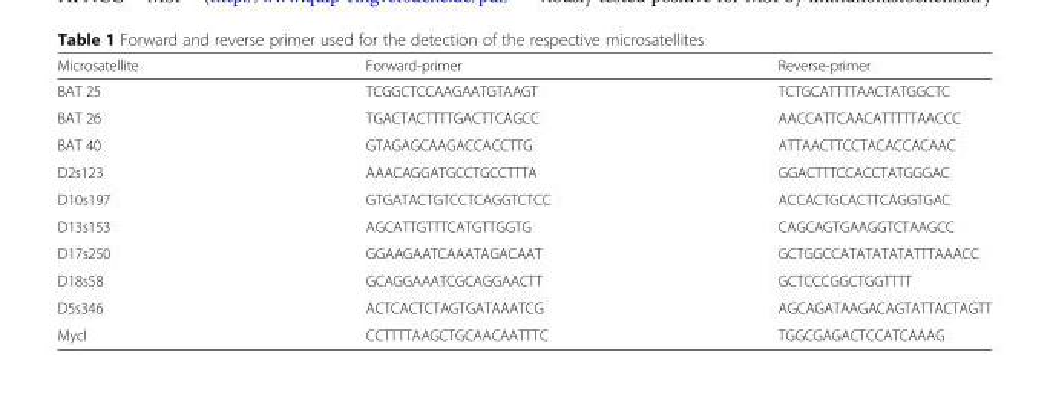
<table><thead><tr><td>Microsatellite</td><td>Forward-primer</td><td>Reverse-primer</td></tr></thead><tbody><tr><td>BAT 25</td><td>TCGGCTCCAAGAATGTAAGT</td><td>TCTGCATTTTAACTATGGCTC</td></tr><tr><td>BAT 26</td><td>TGACTACTTTTGACTTCAGCC</td><td>AACCATTCAACATTTTTAACCC</td></tr><tr><td>BAT 40</td><td>GTAGAGCAAGACCACCTTG</td><td>ATTAACTTCCTACACCACAAC</td></tr><tr><td>D2s123</td><td>AAACAGGATGCCTGCCTTTA</td><td>GGACTTTCCACCTATGGGAC</td></tr><tr><td>D10s197</td><td>GTGATACTGTCCTCAGGTCTCC</td><td>ACCACTGCACTTCAGGTGAC</td></tr><tr><td>D13s153</td><td>AGCATTGTTTCATGTTGGTG</td><td>CAGCAGTGAAGGTCTAAGCC</td></tr><tr><td>D17s250</td><td>GGAAGAATCAAATAGACAAT</td><td>GCTGGCCATATATATATTTAAACC</td></tr><tr><td>D18s58</td><td>GCAGGAAATCGCAGGAACTT</td><td>GCTCCCGGCTGGTTTT</td></tr><tr><td>D5s346</td><td>ACTCACTCTAGTGATAAATCG</td><td>AGCAGATAAGACAGTATTACTAGTT</td></tr><tr><td>MycI</td><td>CCTTTTAAGCTGCAACAATTTC</td><td>TGGCGAGACTCCATCAAAG</td></tr></tbody></table>